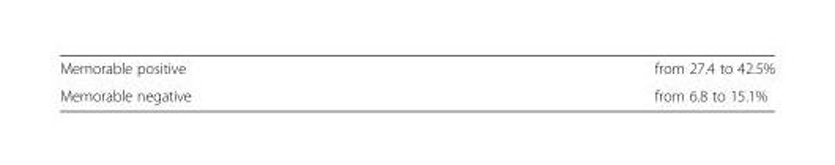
<table><tbody><tr><td>Memorable positive</td><td>from 27.4 to 42.5%</td></tr><tr><td>Memorable negative</td><td>from 6.8 to 15.1%</td></tr></tbody></table>